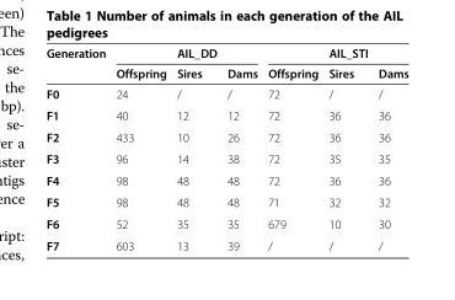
<table><thead><tr><td rowspan="2">Generation</td><td colspan="3">AIL_DD</td><td colspan="3">AIL_STI</td></tr><tr><td>Offspring</td><td>Sires</td><td>Dams</td><td>Offspring</td><td>Sires</td><td>Dams</td></tr></thead><tbody><tr><td>F0</td><td>24</td><td>/</td><td>/</td><td>72</td><td>/</td><td>/</td></tr><tr><td>F1</td><td>40</td><td>12</td><td>12</td><td>72</td><td>36</td><td>36</td></tr><tr><td>F2</td><td>433</td><td>10</td><td>26</td><td>72</td><td>36</td><td>36</td></tr><tr><td>F3</td><td>96</td><td>14</td><td>38</td><td>72</td><td>35</td><td>35</td></tr><tr><td>F4</td><td>98</td><td>48</td><td>48</td><td>72</td><td>36</td><td>36</td></tr><tr><td>F5</td><td>98</td><td>48</td><td>48</td><td>71</td><td>32</td><td>32</td></tr><tr><td>F6</td><td>52</td><td>35</td><td>35</td><td>679</td><td>10</td><td>30</td></tr><tr><td>F7</td><td>603</td><td>13</td><td>39</td><td>/</td><td>/</td><td>/</td></tr></tbody></table>